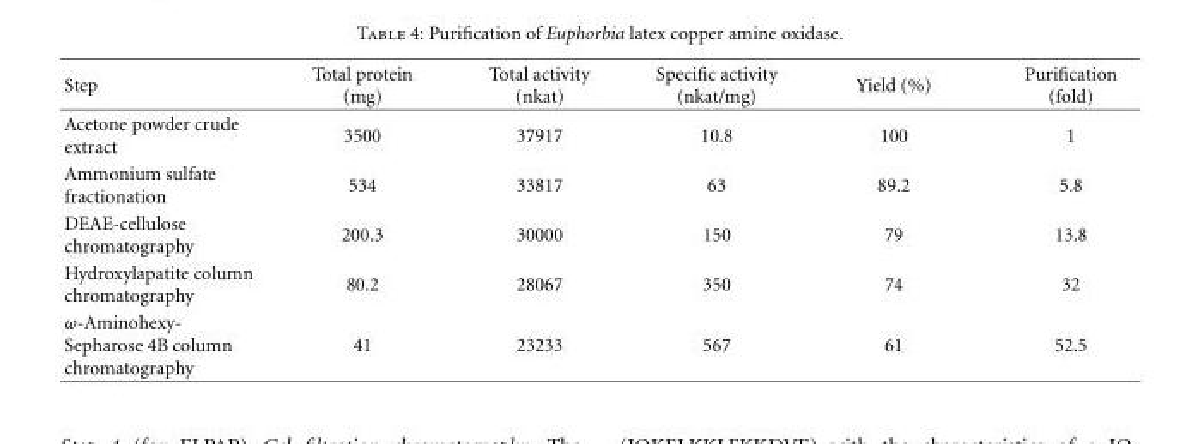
<table><thead><tr><td>Step</td><td>Total protein (mg)</td><td>Total activity (nkat)</td><td>Specific activity (nkat/mg)</td><td>Yield (%)</td><td>Purification (fold)</td></tr></thead><tbody><tr><td>Acetone powder crude extract</td><td>3500</td><td>37917</td><td>10.8</td><td>100</td><td>1</td></tr><tr><td>Ammonium sulfate fractionation</td><td>534</td><td>33817</td><td>63</td><td>89.2</td><td>5.8</td></tr><tr><td>DEAE-cellulose chromatography</td><td>200.3</td><td>30000</td><td>150</td><td>79</td><td>13.8</td></tr><tr><td>Hydroxylapatite column chromatography</td><td>80.2</td><td>28067</td><td>350</td><td>74</td><td>32</td></tr><tr><td>ω-Aminohexy- Sepharose 4B column chromatography</td><td>41</td><td>23233</td><td>567</td><td>61</td><td>52.5</td></tr></tbody></table>